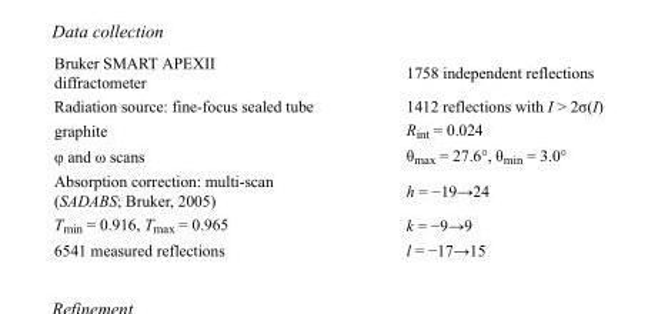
<table><tbody><tr><td>Bruker SMART APEXII diffractometer</td><td>1758 independent reflections</td></tr><tr><td>Radiation source: fine-focus sealed tube</td><td>1412 reflections with I &gt; 2σ(I)</td></tr><tr><td>graphite</td><td>R<sub>int</sub> = 0.024</td></tr><tr><td>φ and ω scans</td><td>θ<sub>max</sub> = 27.6°, θ<sub>min</sub> = 3.0°</td></tr><tr><td>Absorption correction: multi-scan (SADABS; Bruker, 2005)</td><td>h = −19→24</td></tr><tr><td>T<sub>min</sub> = 0.916, T<sub>max</sub> = 0.965</td><td>k = −9→9</td></tr><tr><td>6541 measured reflections</td><td>l = −17→15</td></tr></tbody></table>